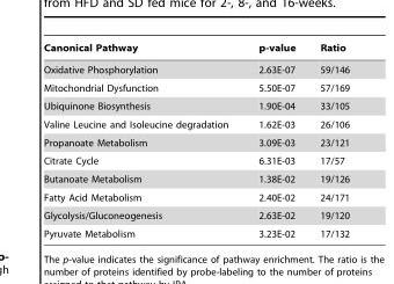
<table><thead><tr><td>Canonical Pathway</td><td>p-value</td><td>Ratio</td></tr></thead><tbody><tr><td>Oxidative Phosphorylation</td><td>2.63E-07</td><td>59/146</td></tr><tr><td>Mitochondrial Dysfunction</td><td>5.50E-07</td><td>57/169</td></tr><tr><td>Ubiquinone Biosynthesis</td><td>1.90E-04</td><td>33/105</td></tr><tr><td>Valine Leucine and Isoleucine degradation</td><td>1.62E-03</td><td>26/106</td></tr><tr><td>Propanoate Metabolism</td><td>3.09E-03</td><td>23/121</td></tr><tr><td>Citrate Cycle</td><td>6.31E-03</td><td>17/57</td></tr><tr><td>Butanoate Metabolism</td><td>1.38E-02</td><td>19/126</td></tr><tr><td>Fatty Acid Metabolism</td><td>2.40E-02</td><td>24/171</td></tr><tr><td>Glycolysis/Gluconeogenesis</td><td>2.63E-02</td><td>19/120</td></tr><tr><td>Pyruvate Metabolism</td><td>3.23E-02</td><td>17/132</td></tr></tbody></table>